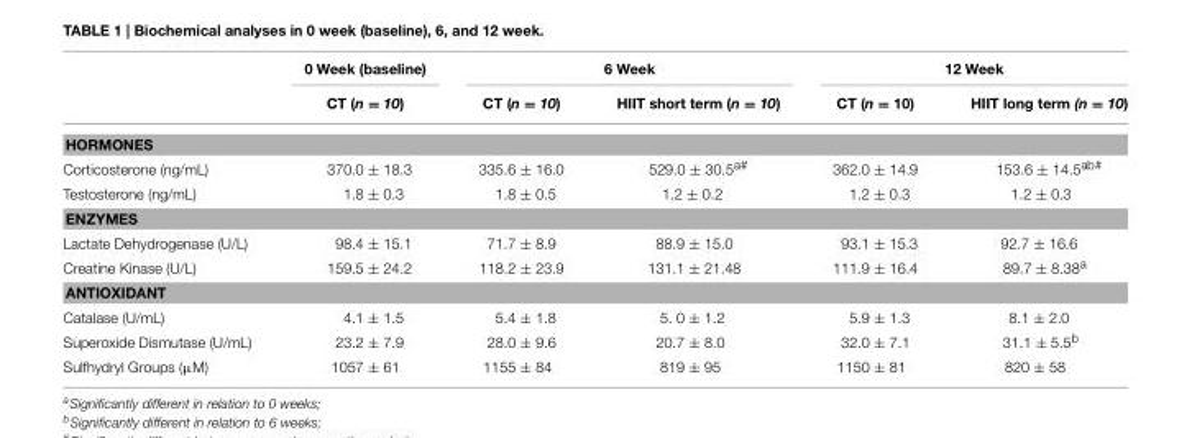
<table><thead><tr><td rowspan="2"></td><td rowspan="2">0 Week (baseline) CT (n = 10)</td><td colspan="2">6 Week</td><td colspan="2">12 Week</td></tr><tr><td>CT (n = 10)</td><td>HIIT short term (n = 10)</td><td>CT (n = 10)</td><td>HIIT long term (n = 10)</td></tr></thead><tbody><tr><td colspan="6">HORMONES</td></tr><tr><td>Corticosterone (ng/mL)</td><td>370.0 ± 18.3</td><td>335.6 ± 16.0</td><td>529.0 ± 30.5<sup>a#</sup></td><td>362.0 ± 14.9</td><td>153.6 ± 14.5<sup>ab#</sup></td></tr><tr><td>Testosterone (ng/mL)</td><td>1.8 ± 0.3</td><td>1.8 ± 0.5</td><td>1.2 ± 0.2</td><td>1.2 ± 0.3</td><td>1.2 ± 0.3</td></tr><tr><td colspan="6">ENZYMES</td></tr><tr><td>Lactate Dehydrogenase (U/L)</td><td>98.4 ± 15.1</td><td>71.7 ± 8.9</td><td>88.9 ± 15.0</td><td>93.1 ± 15.3</td><td>92.7 ± 16.6</td></tr><tr><td>Creatine Kinase (U/L)</td><td>159.5 ± 24.2</td><td>118.2 ± 23.9</td><td>131.1 ± 21.48</td><td>111.9 ± 16.4</td><td>89.7 ± 8.38<sup>a</sup></td></tr><tr><td colspan="6">ANTIOXIDANT</td></tr><tr><td>Catalase (U/mL)</td><td>4.1 ± 1.5</td><td>5.4 ± 1.8</td><td>5. 0 ± 1.2</td><td>5.9 ± 1.3</td><td>8.1 ± 2.0</td></tr><tr><td>Superoxide Dismutase (U/mL)</td><td>23.2 ± 7.9</td><td>28.0 ± 9.6</td><td>20.7 ± 8.0</td><td>32.0 ± 7.1</td><td>31.1 ± 5.5<sup>b</sup></td></tr><tr><td>Sulfhydryl Groups (µM)</td><td>1057 ± 61</td><td>1155 ± 84</td><td>819 ± 95</td><td>1150 ± 81</td><td>820 ± 58</td></tr></tbody></table>